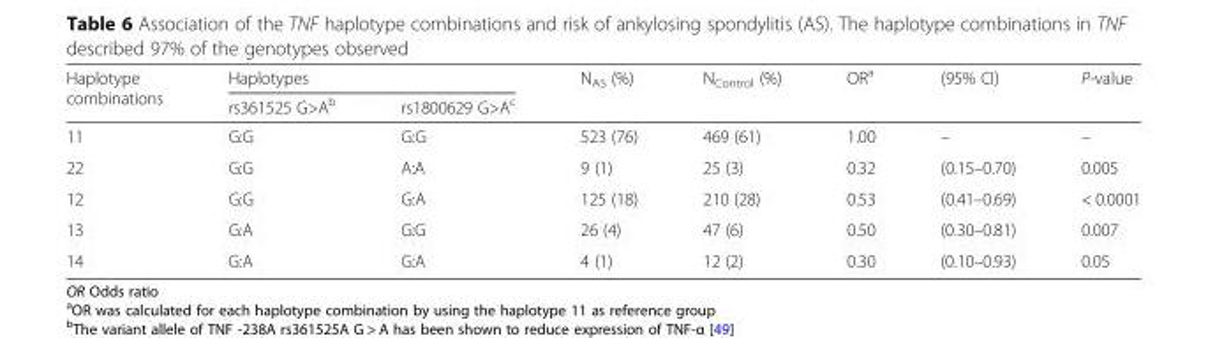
<table><thead><tr><td rowspan="2">Haplotype combinations</td><td colspan="2">Haplotypes</td><td rowspan="2">N<sub>AS</sub> (%)</td><td rowspan="2">N<sub>Control</sub> (%)</td><td rowspan="2">OR<sup>a</sup></td><td rowspan="2">(95% CI)</td><td rowspan="2">P-value</td></tr><tr><td>rs361525 G&gt;A<sup>b</sup></td><td>rs1800629 G&gt;A<sup>c</sup></td></tr></thead><tbody><tr><td>11</td><td>G:G</td><td>G:G</td><td>523 (76)</td><td>469 (61)</td><td>1.00</td><td>–</td><td>–</td></tr><tr><td>22</td><td>G:G</td><td>A:A</td><td>9 (1)</td><td>25 (3)</td><td>0.32</td><td>(0.15–0.70)</td><td>0.005</td></tr><tr><td>12</td><td>G:G</td><td>G:A</td><td>125 (18)</td><td>210 (28)</td><td>0.53</td><td>(0.41–0.69)</td><td>&lt; 0.0001</td></tr><tr><td>13</td><td>G:A</td><td>G:G</td><td>26 (4)</td><td>47 (6)</td><td>0.50</td><td>(0.30–0.81)</td><td>0.007</td></tr><tr><td>14</td><td>G:A</td><td>G:A</td><td>4 (1)</td><td>12 (2)</td><td>0.30</td><td>(0.10–0.93)</td><td>0.05</td></tr></tbody></table>